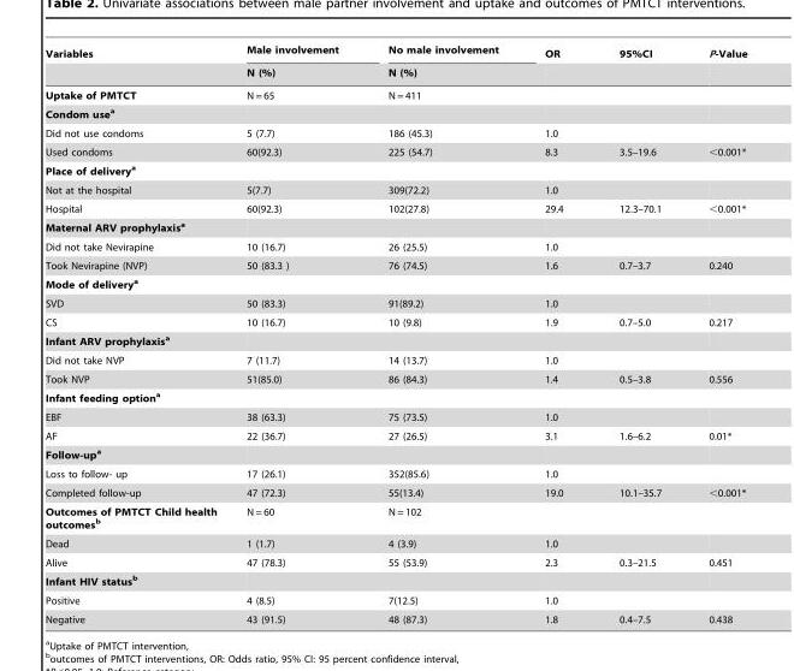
<table><thead><tr><td rowspan="2">Variables</td><td rowspan="2">Male involvement N (%)</td><td rowspan="2">No male involvement N (%)</td><td rowspan="2">OR</td><td rowspan="2">95%CI</td><td rowspan="2">P-Value</td></tr><tr></tr></thead><tbody><tr><td>Uptake of PMTCT</td><td>N = 65</td><td>N = 411</td><td></td><td></td><td></td></tr><tr><td colspan="6">Condom usea</td></tr><tr><td>Did not use condoms</td><td>5 (7.7)</td><td>186 (45.3)</td><td>1.0</td><td></td><td></td></tr><tr><td>Used condoms</td><td>60(92.3)</td><td>225 (54.7)</td><td>8.3</td><td>3.5–19.6</td><td>&lt;0.001*</td></tr><tr><td colspan="6">Place of deliverya</td></tr><tr><td>Not at the hospital</td><td>5(7.7)</td><td>309(72.2)</td><td>1.0</td><td></td><td></td></tr><tr><td>Hospital</td><td>60(92.3)</td><td>102(27.8)</td><td>29.4</td><td>12.3–70.1</td><td>&lt;0.001*</td></tr><tr><td colspan="6">Maternal ARV prophylaxisa</td></tr><tr><td>Did not take Nevirapine</td><td>10 (16.7)</td><td>26 (25.5)</td><td>1.0</td><td></td><td></td></tr><tr><td>Took Nevirapine (NVP)</td><td>50 (83.3 )</td><td>76 (74.5)</td><td>1.6</td><td>0.7–3.7</td><td>0.240</td></tr><tr><td colspan="6">Mode of deliverya</td></tr><tr><td>SVD</td><td>50 (83.3)</td><td>91(89.2)</td><td>1.0</td><td></td><td></td></tr><tr><td>CS</td><td>10 (16.7)</td><td>10 (9.8)</td><td>1.9</td><td>0.7–5.0</td><td>0.217</td></tr><tr><td colspan="6">Infant ARV prophylaxisa</td></tr><tr><td>Did not take NVP</td><td>7 (11.7)</td><td>14 (13.7)</td><td>1.0</td><td></td><td></td></tr><tr><td>Took NVP</td><td>51(85.0)</td><td>86 (84.3)</td><td>1.4</td><td>0.5–3.8</td><td>0.556</td></tr><tr><td colspan="6">Infant feeding optiona</td></tr><tr><td>EBF</td><td>38 (63.3)</td><td>75 (73.5)</td><td>1.0</td><td></td><td></td></tr><tr><td>AF</td><td>22 (36.7)</td><td>27 (26.5)</td><td>3.1</td><td>1.6–6.2</td><td>0.01*</td></tr><tr><td colspan="6">Follow-upa</td></tr><tr><td>Loss to follow- up</td><td>17 (26.1)</td><td>352(85.6)</td><td>1.0</td><td></td><td></td></tr><tr><td>Completed follow-up</td><td>47 (72.3)</td><td>55(13.4)</td><td>19.0</td><td>10.1–35.7</td><td>&lt;0.001*</td></tr><tr><td>Outcomes of PMTCT Child health outcomesb</td><td>N = 60</td><td>N = 102</td><td></td><td></td><td></td></tr><tr><td>Dead</td><td>1 (1.7)</td><td>4 (3.9)</td><td>1.0</td><td></td><td></td></tr><tr><td>Alive</td><td>47 (78.3)</td><td>55 (53.9)</td><td>2.3</td><td>0.3–21.5</td><td>0.451</td></tr><tr><td colspan="6">Infant HIV statusb</td></tr><tr><td>Positive</td><td>4 (8.5)</td><td>7(12.5)</td><td>1.0</td><td></td><td></td></tr><tr><td>Negative</td><td>43 (91.5)</td><td>48 (87.3)</td><td>1.8</td><td>0.4–7.5</td><td>0.438</td></tr></tbody></table>